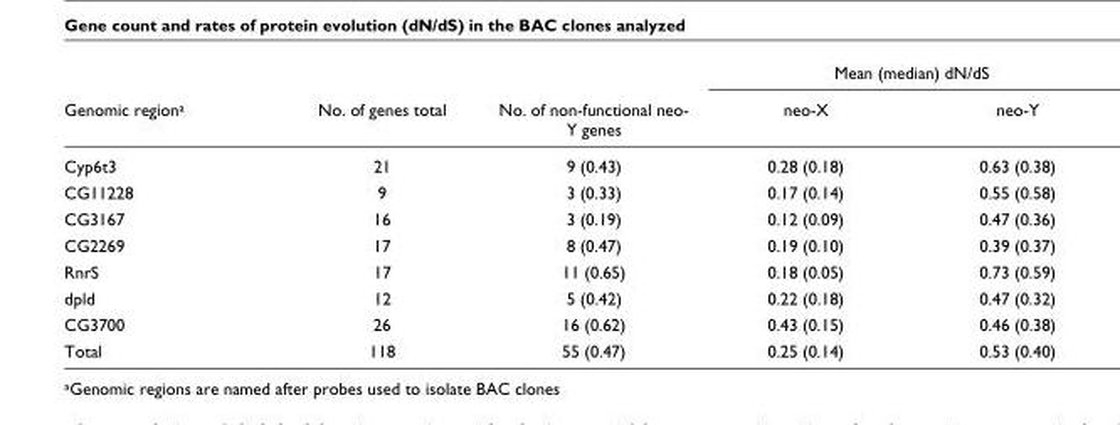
<table><thead><tr><td rowspan="2">Genomic region<sup>a</sup></td><td rowspan="2">No. of genes total</td><td rowspan="2">No. of non-functional neo- Y genes</td><td colspan="2">Mean (median) dN/dS</td></tr><tr><td>neo-X</td><td>neo-Y</td></tr></thead><tbody><tr><td>Cyp6t3</td><td>21</td><td>9 (0.43)</td><td>0.28 (0.18)</td><td>0.63 (0.38)</td></tr><tr><td>CG11228</td><td>9</td><td>3 (0.33)</td><td>0.17 (0.14)</td><td>0.55 (0.58)</td></tr><tr><td>CG3167</td><td>16</td><td>3 (0.19)</td><td>0.12 (0.09)</td><td>0.47 (0.36)</td></tr><tr><td>CG2269</td><td>17</td><td>8 (0.47)</td><td>0.19 (0.10)</td><td>0.39 (0.37)</td></tr><tr><td>RnrS</td><td>17</td><td>11 (0.65)</td><td>0.18 (0.05)</td><td>0.73 (0.59)</td></tr><tr><td>dpld</td><td>12</td><td>5 (0.42)</td><td>0.22 (0.18)</td><td>0.47 (0.32)</td></tr><tr><td>CG3700</td><td>26</td><td>16 (0.62)</td><td>0.43 (0.15)</td><td>0.46 (0.38)</td></tr><tr><td>Total</td><td>118</td><td>55 (0.47)</td><td>0.25 (0.14)</td><td>0.53 (0.40)</td></tr></tbody></table>